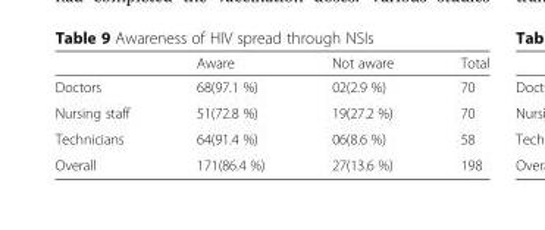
<table><thead><tr><td></td><td>Aware</td><td>Not aware</td><td>Total</td></tr></thead><tbody><tr><td>Doctors</td><td>68(97.1 %)</td><td>02(2.9 %)</td><td>70</td></tr><tr><td>Nursing staff</td><td>51(72.8 %)</td><td>19(27.2 %)</td><td>70</td></tr><tr><td>Technicians</td><td>64(91.4 %)</td><td>06(8.6 %)</td><td>58</td></tr><tr><td>Overall</td><td>171(86.4 %)</td><td>27(13.6 %)</td><td>198</td></tr></tbody></table>